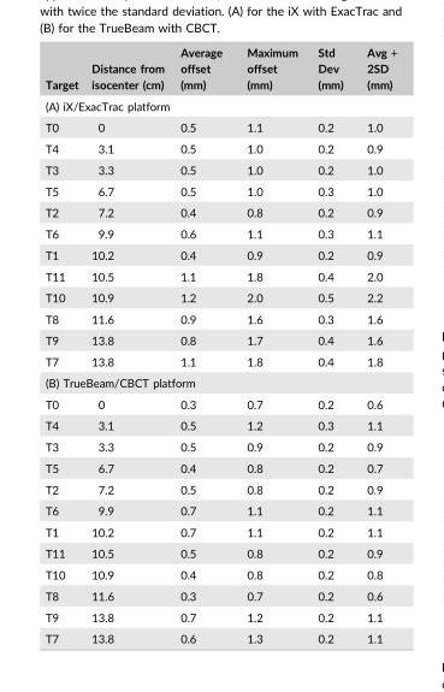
<table><thead><tr><td>Target</td><td>Distance from isocenter (cm)</td><td>Average offset (mm)</td><td>Maximum offset (mm)</td><td>Std Dev (mm)</td><td>Avg + 2SD (mm)</td></tr></thead><tbody><tr><td colspan="6">(A) iX/ExacTrac platform</td></tr><tr><td>T0</td><td>0</td><td>0.5</td><td>1.1</td><td>0.2</td><td>1.0</td></tr><tr><td>T4</td><td>3.1</td><td>0.5</td><td>1.0</td><td>0.2</td><td>0.9</td></tr><tr><td>T3</td><td>3.3</td><td>0.5</td><td>1.0</td><td>0.2</td><td>1.0</td></tr><tr><td>T5</td><td>6.7</td><td>0.5</td><td>1.0</td><td>0.3</td><td>1.0</td></tr><tr><td>T2</td><td>7.2</td><td>0.4</td><td>0.8</td><td>0.2</td><td>0.9</td></tr><tr><td>T6</td><td>9.9</td><td>0.6</td><td>1.1</td><td>0.3</td><td>1.1</td></tr><tr><td>T1</td><td>10.2</td><td>0.4</td><td>0.9</td><td>0.2</td><td>0.9</td></tr><tr><td>T11</td><td>10.5</td><td>1.1</td><td>1.8</td><td>0.4</td><td>2.0</td></tr><tr><td>T10</td><td>10.9</td><td>1.2</td><td>2.0</td><td>0.5</td><td>2.2</td></tr><tr><td>T8</td><td>11.6</td><td>0.9</td><td>1.6</td><td>0.3</td><td>1.6</td></tr><tr><td>T9</td><td>13.8</td><td>0.8</td><td>1.7</td><td>0.4</td><td>1.6</td></tr><tr><td>T7</td><td>13.8</td><td>1.1</td><td>1.8</td><td>0.4</td><td>1.8</td></tr><tr><td colspan="6">(B) TrueBeam/CBCT platform</td></tr><tr><td>T0</td><td>0</td><td>0.3</td><td>0.7</td><td>0.2</td><td>0.6</td></tr><tr><td>T4</td><td>3.1</td><td>0.5</td><td>1.2</td><td>0.3</td><td>1.1</td></tr><tr><td>T3</td><td>3.3</td><td>0.5</td><td>0.9</td><td>0.2</td><td>0.9</td></tr><tr><td>T5</td><td>6.7</td><td>0.4</td><td>0.8</td><td>0.2</td><td>0.7</td></tr><tr><td>T2</td><td>7.2</td><td>0.5</td><td>0.8</td><td>0.2</td><td>0.9</td></tr><tr><td>T6</td><td>9.9</td><td>0.7</td><td>1.1</td><td>0.2</td><td>1.1</td></tr><tr><td>T1</td><td>10.2</td><td>0.7</td><td>1.1</td><td>0.2</td><td>1.1</td></tr><tr><td>T11</td><td>10.5</td><td>0.5</td><td>0.8</td><td>0.2</td><td>0.9</td></tr><tr><td>T10</td><td>10.9</td><td>0.4</td><td>0.8</td><td>0.2</td><td>0.8</td></tr><tr><td>T8</td><td>11.6</td><td>0.3</td><td>0.7</td><td>0.2</td><td>0.6</td></tr><tr><td>T9</td><td>13.8</td><td>0.7</td><td>1.2</td><td>0.2</td><td>1.1</td></tr><tr><td>T7</td><td>13.8</td><td>0.6</td><td>1.3</td><td>0.2</td><td>1.1</td></tr></tbody></table>